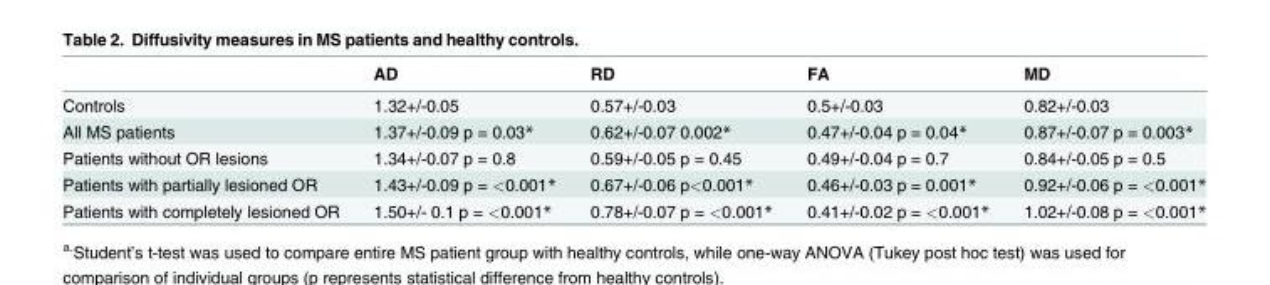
<table><thead><tr><td></td><td>AD</td><td>RD</td><td>FA</td><td>MD</td></tr></thead><tbody><tr><td>Controls</td><td>1.32+/-0.05</td><td>0.57+/-0.03</td><td>0.5+/-0.03</td><td>0.82+/-0.03</td></tr><tr><td>All MS patients</td><td>1.37+/-0.09 p = 0.03*</td><td>0.62+/-0.07 0.002*</td><td>0.47+/-0.04 p = 0.04*</td><td>0.87+/-0.07 p = 0.003*</td></tr><tr><td>Patients without OR lesions</td><td>1.34+/-0.07 p = 0.8</td><td>0.59+/-0.05 p = 0.45</td><td>0.49+/-0.04 p = 0.7</td><td>0.84+/-0.05 p = 0.5</td></tr><tr><td>Patients with partially lesioned OR</td><td>1.43+/-0.09 p = &lt;0.001*</td><td>0.67+/-0.06 p&lt;0.001*</td><td>0.46+/-0.03 p = 0.001*</td><td>0.92+/-0.06 p = &lt;0.001*</td></tr><tr><td>Patients with completely lesioned OR</td><td>1.50+/- 0.1 p = &lt;0.001*</td><td>0.78+/-0.07 p = &lt;0.001*</td><td>0.41+/-0.02 p = &lt;0.001*</td><td>1.02+/-0.08 p = &lt;0.001*</td></tr></tbody></table>